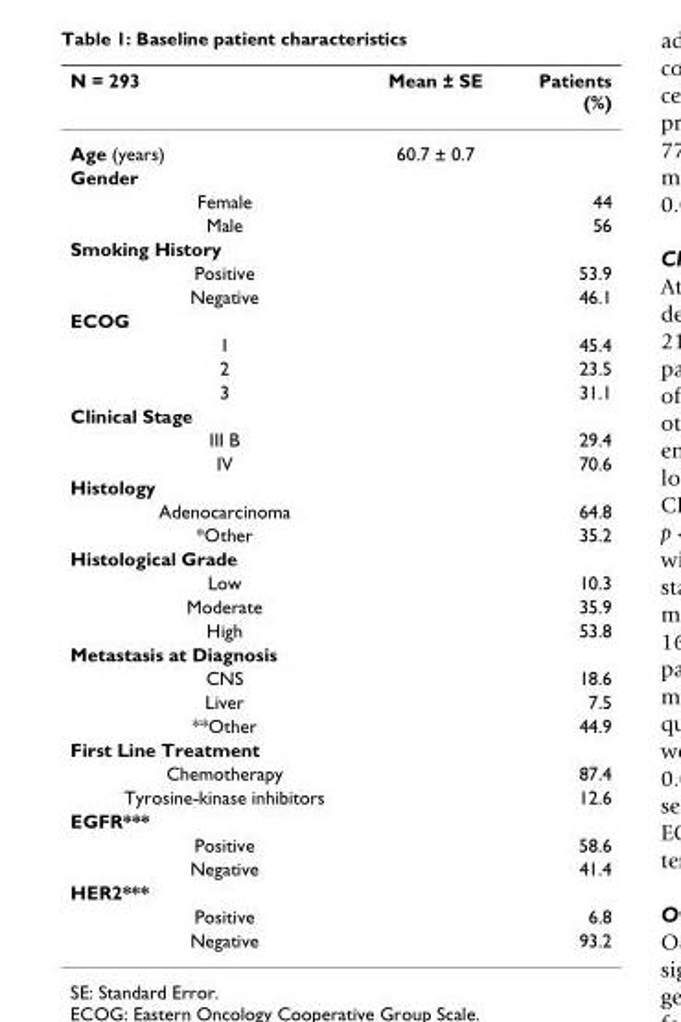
<table><thead><tr><td>N = 293</td><td>Mean ± SE</td><td>Patients (%)</td></tr></thead><tbody><tr><td>Age (years)</td><td>60.7 ± 0.7</td><td></td></tr><tr><td colspan="3">Gender</td></tr><tr><td>Female</td><td></td><td>44</td></tr><tr><td>Male</td><td></td><td>56</td></tr><tr><td colspan="3">Smoking History</td></tr><tr><td>Positive</td><td></td><td>53.9</td></tr><tr><td>Negative</td><td></td><td>46.1</td></tr><tr><td colspan="3">ECOG</td></tr><tr><td>1</td><td></td><td>45.4</td></tr><tr><td>2</td><td></td><td>23.5</td></tr><tr><td>3</td><td></td><td>31.1</td></tr><tr><td colspan="3">Clinical Stage</td></tr><tr><td>III B</td><td></td><td>29.4</td></tr><tr><td>IV</td><td></td><td>70.6</td></tr><tr><td colspan="3">Histology</td></tr><tr><td>Adenocarcinoma</td><td></td><td>64.8</td></tr><tr><td>*Other</td><td></td><td>35.2</td></tr><tr><td colspan="3">Histological Grade</td></tr><tr><td>Low</td><td></td><td>10.3</td></tr><tr><td>Moderate</td><td></td><td>35.9</td></tr><tr><td>High</td><td></td><td>53.8</td></tr><tr><td colspan="3">Metastasis at Diagnosis</td></tr><tr><td>CNS</td><td></td><td>18.6</td></tr><tr><td>Liver</td><td></td><td>7.5</td></tr><tr><td>**Other</td><td></td><td>44.9</td></tr><tr><td colspan="3">First Line Treatment</td></tr><tr><td>Chemotherapy</td><td></td><td>87.4</td></tr><tr><td>Tyrosine-kinase inhibitors</td><td></td><td>12.6</td></tr><tr><td colspan="3">EGFR***</td></tr><tr><td>Positive</td><td></td><td>58.6</td></tr><tr><td>Negative</td><td></td><td>41.4</td></tr><tr><td colspan="3">HER2***</td></tr><tr><td>Positive</td><td></td><td>6.8</td></tr><tr><td>Negative</td><td></td><td>93.2</td></tr></tbody></table>